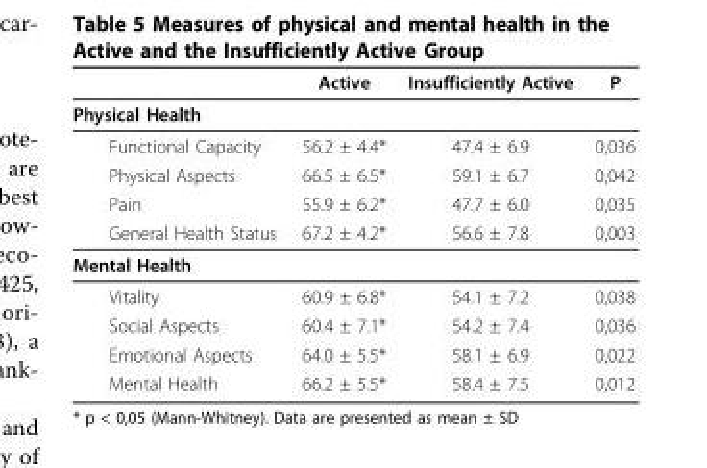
<table><thead><tr><td></td><td>Active</td><td>Insufficiently Active</td><td>P</td></tr></thead><tbody><tr><td colspan="4">Physical Health</td></tr><tr><td>Functional Capacity</td><td>56.2 ± 4.4*</td><td>47.4 ± 6.9</td><td>0,036</td></tr><tr><td>Physical Aspects</td><td>66.5 ± 6.5*</td><td>59.1 ± 6.7</td><td>0,042</td></tr><tr><td>Pain</td><td>55.9 ± 6.2*</td><td>47.7 ± 6.0</td><td>0,035</td></tr><tr><td>General Health Status</td><td>67.2 ± 4.2*</td><td>56.6 ± 7.8</td><td>0,003</td></tr><tr><td colspan="4">Mental Health</td></tr><tr><td>Vitality</td><td>60.9 ± 6.8*</td><td>54.1 ± 7.2</td><td>0,038</td></tr><tr><td>Social Aspects</td><td>60.4 ± 7.1*</td><td>54.2 ± 7.4</td><td>0,036</td></tr><tr><td>Emotional Aspects</td><td>64.0 ± 5.5*</td><td>58.1 ± 6.9</td><td>0,022</td></tr><tr><td>Mental Health</td><td>66.2 ± 5.5*</td><td>58.4 ± 7.5</td><td>0,012</td></tr></tbody></table>